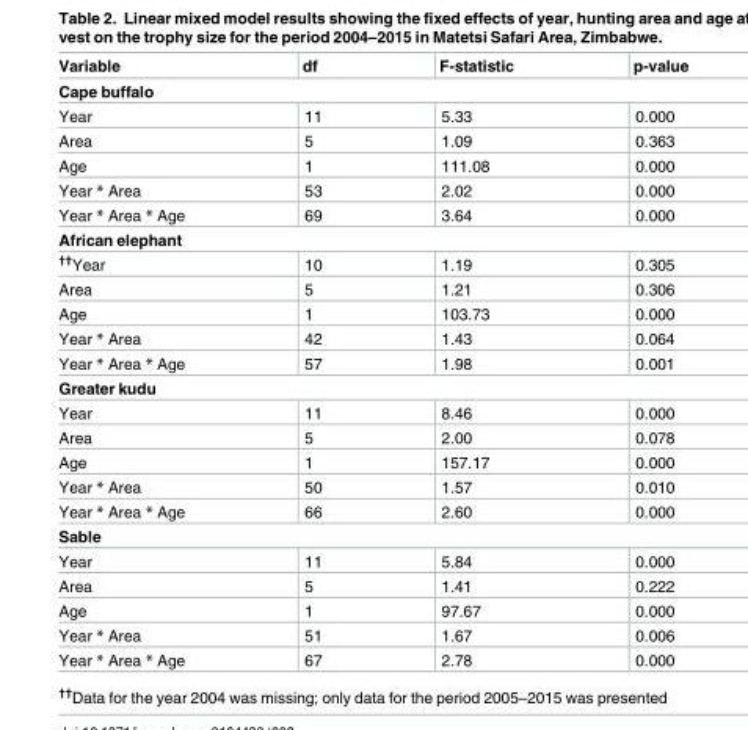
<table><thead><tr><td>Variable</td><td>df</td><td>F-statistic</td><td>p-value</td></tr></thead><tbody><tr><td colspan="4">Cape buffalo</td></tr><tr><td>Year</td><td>11</td><td>5.33</td><td>0.000</td></tr><tr><td>Area</td><td>5</td><td>1.09</td><td>0.363</td></tr><tr><td>Age</td><td>1</td><td>111.08</td><td>0.000</td></tr><tr><td>Year * Area</td><td>53</td><td>2.02</td><td>0.000</td></tr><tr><td>Year * Area * Age</td><td>69</td><td>3.64</td><td>0.000</td></tr><tr><td colspan="4">African elephant</td></tr><tr><td><sup>††</sup>Year</td><td>10</td><td>1.19</td><td>0.305</td></tr><tr><td>Area</td><td>5</td><td>1.21</td><td>0.306</td></tr><tr><td>Age</td><td>1</td><td>103.73</td><td>0.000</td></tr><tr><td>Year * Area</td><td>42</td><td>1.43</td><td>0.064</td></tr><tr><td>Year * Area * Age</td><td>57</td><td>1.98</td><td>0.001</td></tr><tr><td colspan="4">Greater kudu</td></tr><tr><td>Year</td><td>11</td><td>8.46</td><td>0.000</td></tr><tr><td>Area</td><td>5</td><td>2.00</td><td>0.078</td></tr><tr><td>Age</td><td>1</td><td>157.17</td><td>0.000</td></tr><tr><td>Year * Area</td><td>50</td><td>1.57</td><td>0.010</td></tr><tr><td>Year * Area * Age</td><td>66</td><td>2.60</td><td>0.000</td></tr><tr><td colspan="4">Sable</td></tr><tr><td>Year</td><td>11</td><td>5.84</td><td>0.000</td></tr><tr><td>Area</td><td>5</td><td>1.41</td><td>0.222</td></tr><tr><td>Age</td><td>1</td><td>97.67</td><td>0.000</td></tr><tr><td>Year * Area</td><td>51</td><td>1.67</td><td>0.006</td></tr><tr><td>Year * Area * Age</td><td>67</td><td>2.78</td><td>0.000</td></tr></tbody></table>